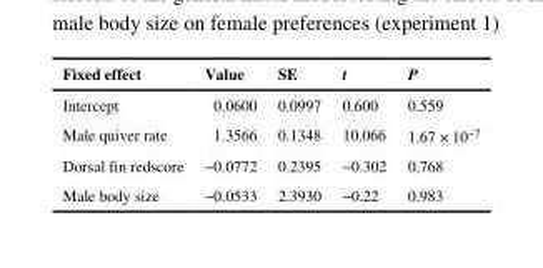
<table><thead><tr><td>Fixed effect</td><td>Value</td><td>SE</td><td>t</td><td>P</td></tr></thead><tbody><tr><td>Intercept</td><td>0.0600</td><td>0.0997</td><td>0.600</td><td>0.559</td></tr><tr><td>Male quiver rate</td><td>1.3566</td><td>0.1348</td><td>10.066</td><td>1.67 × 10<sup>−7</sup></td></tr><tr><td>Dorsal fin redscore</td><td>−0.0772</td><td>0.2395</td><td>−0.302</td><td>0.768</td></tr><tr><td>Male body size</td><td>−0.0533</td><td>2.3930</td><td>−0.22</td><td>0.983</td></tr></tbody></table>